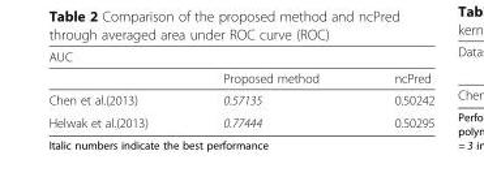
<table><thead><tr><td colspan="3">AUC</td></tr><tr><td></td><td>Proposed method</td><td>ncPred</td></tr></thead><tbody><tr><td>Chen et al.(2013)</td><td>0.57135</td><td>0.50242</td></tr><tr><td>Helwak et al.(2013)</td><td>0.77444</td><td>0.50295</td></tr></tbody></table>